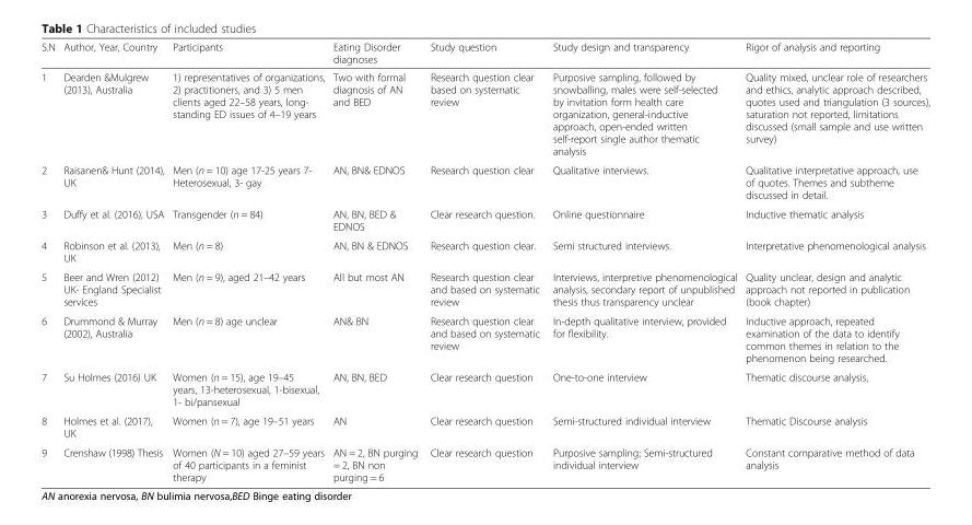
<table><thead><tr><td>S.N</td><td>Author, Year, Country</td><td>Participants</td><td>Eating Disorder diagnoses</td><td>Study question</td><td>Study design and transparency</td><td>Rigor of analysis and reporting</td></tr></thead><tbody><tr><td>1</td><td>Dearden &amp;Mulgrew (2013), Australia</td><td>1) representatives of organizations, 2) practitioners, and 3) 5 men clients aged 22–58 years, long- standing ED issues of 4–19 years</td><td>Two with formal diagnosis of AN and BED</td><td>Research question clear based on systematic review</td><td>Purposive sampling, followed by snowballing, males were self-selected by invitation form health care organization, general-inductive approach, open-ended written self-report single author thematic analysis</td><td>Quality mixed, unclear role of researchers and ethics, analytic approach described, quotes used and triangulation (3 sources), saturation not reported, limitations discussed (small sample and use written survey)</td></tr><tr><td>2</td><td>Raisanen&amp; Hunt (2014), UK</td><td>Men (n = 10) age 17-25 years 7- Heterosexual, 3- gay</td><td>AN, BN&amp; EDNOS</td><td>Research question clear</td><td>Qualitative interviews.</td><td>Qualitative interpretative approach, use of quotes. Themes and subtheme discussed in detail.</td></tr><tr><td>3</td><td>Duffy et al. (2016), USA</td><td>Transgender (n = 84)</td><td>AN, BN, BED &amp; EDNOS</td><td>Clear research question.</td><td>Online questionnaire</td><td>Inductive thematic analysis</td></tr><tr><td>4</td><td>Robinson et al. (2013), UK</td><td>Men (n = 8)</td><td>AN, BN &amp; EDNOS</td><td>Research question clear.</td><td>Semi structured interviews.</td><td>Interpretative phenomenological analysis</td></tr><tr><td>5</td><td>Beer and Wren (2012) UK- England Specialist services</td><td>Men (n = 9), aged 21–42 years</td><td>All but most AN</td><td>Research question clear and based on systematic review</td><td>Interviews, interpretive phenomenological analysis, secondary report of unpublished thesis thus transparency unclear</td><td>Quality unclear, design and analytic approach not reported in publication (book chapter)</td></tr><tr><td>6</td><td>Drummond &amp; Murray (2002), Australia</td><td>Men (n = 8) age unclear</td><td>AN&amp; BN</td><td>Research question clear and based on systematic review</td><td>In-depth qualitative interview, provided for flexibility.</td><td>Inductive approach, repeated examination of the data to identify common themes in relation to the phenomenon being researched.</td></tr><tr><td>7</td><td>Su Holmes (2016) UK</td><td>Women (n = 15), age 19–45 years, 13-heterosexual, 1-bisexual, 1- bi/pansexual</td><td>AN, BN, BED</td><td>Clear research question</td><td>One-to-one interview</td><td>Thematic discourse analysis,</td></tr><tr><td>8</td><td>Holmes et al. (2017), UK</td><td>Women (n = 7), age 19–51 years</td><td>AN</td><td>Clear research question</td><td>Semi-structured individual interview</td><td>Thematic Discourse analysis</td></tr><tr><td>9</td><td>Crenshaw (1998) Thesis</td><td>Women (N = 10) aged 27–59 years of 40 participants in a feminist therapy</td><td>AN = 2, BN purging = 2, BN non purging = 6</td><td>Clear research question</td><td>Purposive sampling; Semi-structured individual interview</td><td>Constant comparative method of data analysis</td></tr></tbody></table>